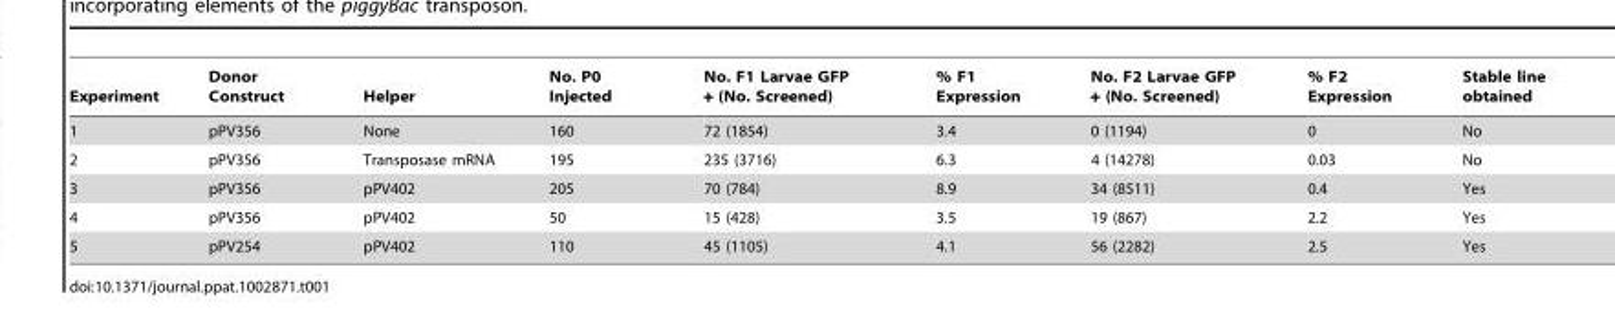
<table><thead><tr><td>Experiment</td><td>Donor Construct</td><td>Helper</td><td>No. P0 Injected</td><td>No. F1 Larvae GFP + (No. Screened)</td><td>% F1 Expression</td><td>No. F2 Larvae GFP + (No. Screened)</td><td>% F2 Expression</td><td>Stable line obtained</td></tr></thead><tbody><tr><td>1</td><td>pPV356</td><td>None</td><td>160</td><td>72 (1854)</td><td>3.4</td><td>0 (1194)</td><td>0</td><td>No</td></tr><tr><td>2</td><td>pPV356</td><td>Transposase mRNA</td><td>195</td><td>235 (3716)</td><td>6.3</td><td>4 (14278)</td><td>0.03</td><td>No</td></tr><tr><td>3</td><td>pPV356</td><td>pPV402</td><td>205</td><td>70 (784)</td><td>8.9</td><td>34 (8511)</td><td>0.4</td><td>Yes</td></tr><tr><td>4</td><td>pPV356</td><td>pPV402</td><td>50</td><td>15 (428)</td><td>3.5</td><td>19 (867)</td><td>2.2</td><td>Yes</td></tr><tr><td>5</td><td>pPV254</td><td>pPV402</td><td>110</td><td>45 (1105)</td><td>4.1</td><td>56 (2282)</td><td>2.5</td><td>Yes</td></tr></tbody></table>